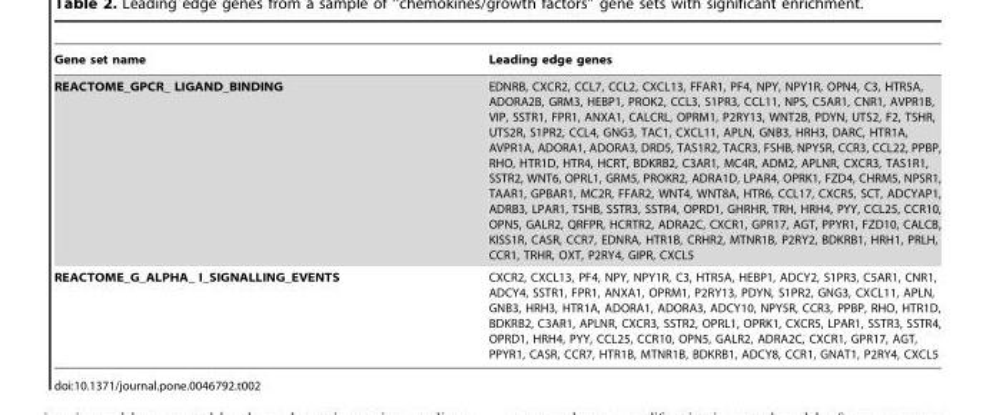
<table><thead><tr><td>Gene set name</td><td>Leading edge genes</td></tr></thead><tbody><tr><td>REACTOME_GPCR_ LIGAND_BINDING</td><td>EDNRB, CXCR2, CCL7, CCL2, CXCL13, FFAR1, PF4, NPY, NPY1R, OPN4, C3, HTR5A, ADORA2B, GRM3, HEBP1, PROK2, CCL3, S1PR3, CCL11, NPS, C5AR1, CNR1, AVPR1B, VIP, SSTR1, FPR1, ANXA1, CALCRL, OPRM1, P2RY13, WNT2B, PDYN, UTS2, F2, TSHR, UTS2R, S1PR2, CCL4, GNG3, TAC1, CXCL11, APLN, GNB3, HRH3, DARC, HTR1A, AVPR1A, ADORA1, ADORA3, DRD5, TAS1R2, TACR3, FSHB, NPY5R, CCR3, CCL22, PPBP, RHO, HTR1D, HTR4, HCRT, BDKRB2, C3AR1, MC4R, ADM2, APLNR, CXCR3, TAS1R1, SSTR2, WNT6, OPRL1, GRM5, PROKR2, ADRA1D, LPAR4, OPRK1, FZD4, CHRM5, NPSR1, TAAR1, GPBAR1, MC2R, FFAR2, WNT4, WNT8A, HTR6, CCL17, CXCR5, SCT, ADCYAP1, ADRB3, LPAR1, TSHB, SSTR3, SSTR4, OPRD1, GHRHR, TRH, HRH4, PYY, CCL25, CCR10, OPN5, GALR2, QRFPR, HCRTR2, ADRA2C, CXCR1, GPR17, AGT, PPYR1, FZD10, CALCB, KISS1R, CASR, CCR7, EDNRA, HTR1B, CRHR2, MTNR1B, P2RY2, BDKRB1, HRH1, PRLH, CCR1, TRHR, OXT, P2RY4, GIPR, CXCL5</td></tr><tr><td>REACTOME_G_ALPHA_ I_SIGNALLING_EVENTS</td><td>CXCR2, CXCL13, PF4, NPY, NPY1R, C3, HTR5A, HEBP1, ADCY2, S1PR3, C5AR1, CNR1, ADCY4, SSTR1, FPR1, ANXA1, OPRM1, P2RY13, PDYN, S1PR2, GNG3, CXCL11, APLN, GNB3, HRH3, HTR1A, ADORA1, ADORA3, ADCY10, NPY5R, CCR3, PPBP, RHO, HTR1D, BDKRB2, C3AR1, APLNR, CXCR3, SSTR2, OPRL1, OPRK1, CXCR5, LPAR1, SSTR3, SSTR4, OPRD1, HRH4, PYY, CCL25, CCR10, OPN5, GALR2, ADRA2C, CXCR1, GPR17, AGT, PPYR1, CASR, CCR7, HTR1B, MTNR1B, BDKRB1, ADCY8, CCR1, GNAT1, P2RY4, CXCL5</td></tr></tbody></table>